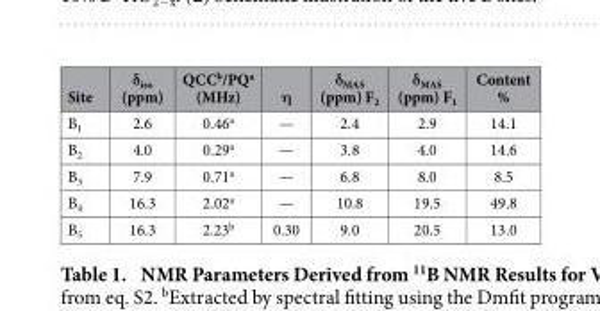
<table><thead><tr><td>Site</td><td>δ<sub>iso</sub> (ppm)</td><td>QCC<sup>b</sup>/PQ<sup>a</sup> (MHz)</td><td>η</td><td>δ<sub>MAS</sub> (ppm) F<sub>2</sub></td><td>δ<sub>MAS</sub> (ppm) F<sub>1</sub></td><td>Content %</td></tr></thead><tbody><tr><td>B<sub>1</sub></td><td>2.6</td><td>0.46<sup>a</sup></td><td>—</td><td>2.4</td><td>2.9</td><td>14.1</td></tr><tr><td>B<sub>2</sub></td><td>4.0</td><td>0.29<sup>a</sup></td><td>—</td><td>3.8</td><td>4.0</td><td>14.6</td></tr><tr><td>B<sub>3</sub></td><td>7.9</td><td>0.71<sup>a</sup></td><td>—</td><td>6.8</td><td>8.0</td><td>8.5</td></tr><tr><td>B<sub>4</sub></td><td>16.3</td><td>2.02<sup>a</sup></td><td>—</td><td>10.8</td><td>19.5</td><td>49.8</td></tr><tr><td>B<sub>5</sub></td><td>16.3</td><td>2.23<sup>b</sup></td><td>0.30</td><td>9.0</td><td>20.5</td><td>13.0</td></tr></tbody></table>